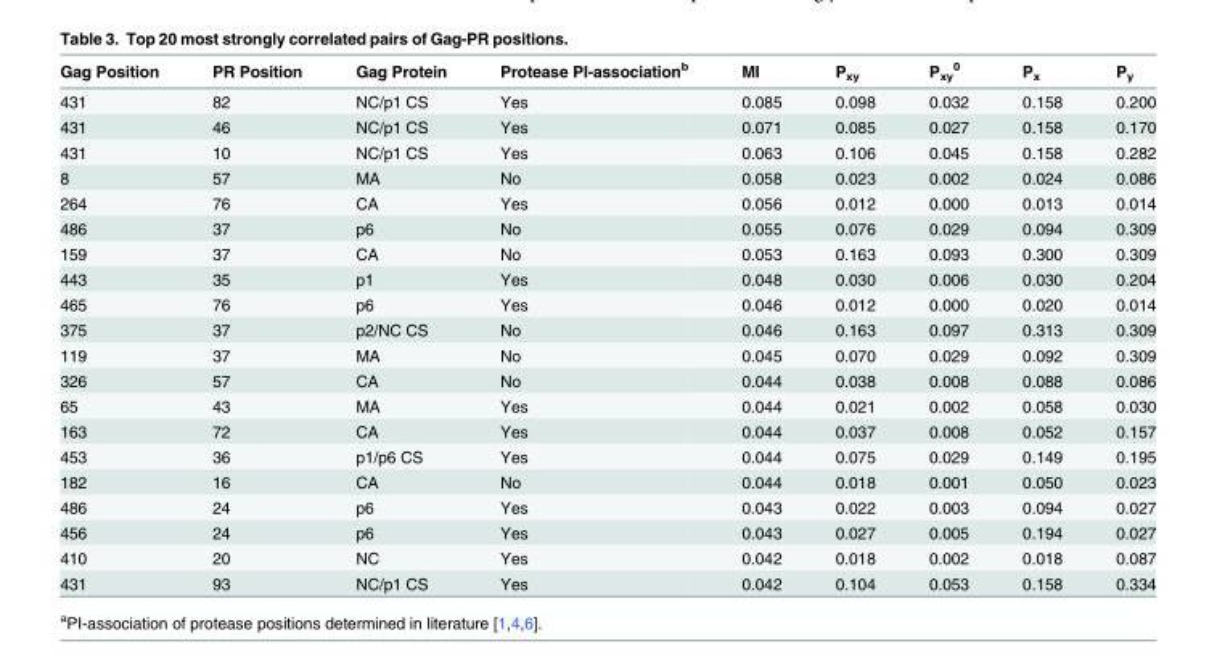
<table><thead><tr><td>Gag Position</td><td>PR Position</td><td>Gag Protein</td><td>Protease PI-association<sup>b</sup></td><td>MI</td><td>P<sub>xy</sub></td><td>P<sub>xy</sub> <sup>0</sup></td><td>P<sub>x</sub></td><td>P<sub>y</sub></td></tr></thead><tbody><tr><td>431</td><td>82</td><td>NC/p1 CS</td><td>Yes</td><td>0.085</td><td>0.098</td><td>0.032</td><td>0.158</td><td>0.200</td></tr><tr><td>431</td><td>46</td><td>NC/p1 CS</td><td>Yes</td><td>0.071</td><td>0.085</td><td>0.027</td><td>0.158</td><td>0.170</td></tr><tr><td>431</td><td>10</td><td>NC/p1 CS</td><td>Yes</td><td>0.063</td><td>0.106</td><td>0.045</td><td>0.158</td><td>0.282</td></tr><tr><td>8</td><td>57</td><td>MA</td><td>No</td><td>0.058</td><td>0.023</td><td>0.002</td><td>0.024</td><td>0.086</td></tr><tr><td>264</td><td>76</td><td>CA</td><td>Yes</td><td>0.056</td><td>0.012</td><td>0.000</td><td>0.013</td><td>0.014</td></tr><tr><td>486</td><td>37</td><td>p6</td><td>No</td><td>0.055</td><td>0.076</td><td>0.029</td><td>0.094</td><td>0.309</td></tr><tr><td>159</td><td>37</td><td>CA</td><td>No</td><td>0.053</td><td>0.163</td><td>0.093</td><td>0.300</td><td>0.309</td></tr><tr><td>443</td><td>35</td><td>p1</td><td>Yes</td><td>0.048</td><td>0.030</td><td>0.006</td><td>0.030</td><td>0.204</td></tr><tr><td>465</td><td>76</td><td>p6</td><td>Yes</td><td>0.046</td><td>0.012</td><td>0.000</td><td>0.020</td><td>0.014</td></tr><tr><td>375</td><td>37</td><td>p2/NC CS</td><td>No</td><td>0.046</td><td>0.163</td><td>0.097</td><td>0.313</td><td>0.309</td></tr><tr><td>119</td><td>37</td><td>MA</td><td>No</td><td>0.045</td><td>0.070</td><td>0.029</td><td>0.092</td><td>0.309</td></tr><tr><td>326</td><td>57</td><td>CA</td><td>No</td><td>0.044</td><td>0.038</td><td>0.008</td><td>0.088</td><td>0.086</td></tr><tr><td>65</td><td>43</td><td>MA</td><td>Yes</td><td>0.044</td><td>0.021</td><td>0.002</td><td>0.058</td><td>0.030</td></tr><tr><td>163</td><td>72</td><td>CA</td><td>Yes</td><td>0.044</td><td>0.037</td><td>0.008</td><td>0.052</td><td>0.157</td></tr><tr><td>453</td><td>36</td><td>p1/p6 CS</td><td>Yes</td><td>0.044</td><td>0.075</td><td>0.029</td><td>0.149</td><td>0.195</td></tr><tr><td>182</td><td>16</td><td>CA</td><td>No</td><td>0.044</td><td>0.018</td><td>0.001</td><td>0.050</td><td>0.023</td></tr><tr><td>486</td><td>24</td><td>p6</td><td>Yes</td><td>0.043</td><td>0.022</td><td>0.003</td><td>0.094</td><td>0.027</td></tr><tr><td>456</td><td>24</td><td>p6</td><td>Yes</td><td>0.043</td><td>0.027</td><td>0.005</td><td>0.194</td><td>0.027</td></tr><tr><td>410</td><td>20</td><td>NC</td><td>Yes</td><td>0.042</td><td>0.018</td><td>0.002</td><td>0.018</td><td>0.087</td></tr><tr><td>431</td><td>93</td><td>NC/p1 CS</td><td>Yes</td><td>0.042</td><td>0.104</td><td>0.053</td><td>0.158</td><td>0.334</td></tr></tbody></table>